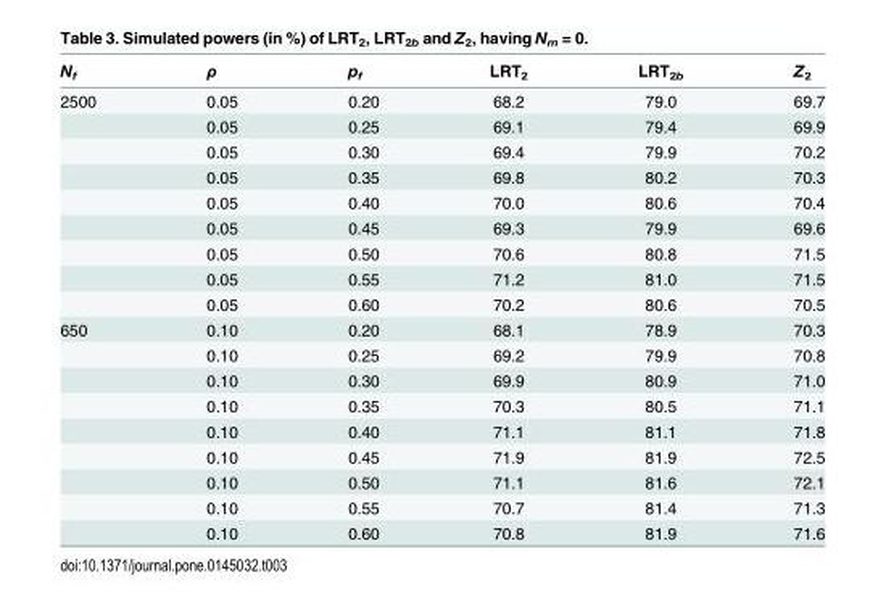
<table><thead><tr><td>N<sub>f</sub></td><td>ρ</td><td>p<sub>f</sub></td><td>LRT<sub>2</sub></td><td>LRT<sub>2b</sub></td><td>Z<sub>2</sub></td></tr></thead><tbody><tr><td rowspan="9">2500</td><td>0.05</td><td>0.20</td><td>68.2</td><td>79.0</td><td>69.7</td></tr><tr><td>0.05</td><td>0.25</td><td>69.1</td><td>79.4</td><td>69.9</td></tr><tr><td>0.05</td><td>0.30</td><td>69.4</td><td>79.9</td><td>70.2</td></tr><tr><td>0.05</td><td>0.35</td><td>69.8</td><td>80.2</td><td>70.3</td></tr><tr><td>0.05</td><td>0.40</td><td>70.0</td><td>80.6</td><td>70.4</td></tr><tr><td>0.05</td><td>0.45</td><td>69.3</td><td>79.9</td><td>69.6</td></tr><tr><td>0.05</td><td>0.50</td><td>70.6</td><td>80.8</td><td>71.5</td></tr><tr><td>0.05</td><td>0.55</td><td>71.2</td><td>81.0</td><td>71.5</td></tr><tr><td>0.05</td><td>0.60</td><td>70.2</td><td>80.6</td><td>70.5</td></tr><tr><td rowspan="9">650</td><td>0.10</td><td>0.20</td><td>68.1</td><td>78.9</td><td>70.3</td></tr><tr><td>0.10</td><td>0.25</td><td>69.2</td><td>79.9</td><td>70.8</td></tr><tr><td>0.10</td><td>0.30</td><td>69.9</td><td>80.9</td><td>71.0</td></tr><tr><td>0.10</td><td>0.35</td><td>70.3</td><td>80.5</td><td>71.1</td></tr><tr><td>0.10</td><td>0.40</td><td>71.1</td><td>81.1</td><td>71.8</td></tr><tr><td>0.10</td><td>0.45</td><td>71.9</td><td>81.9</td><td>72.5</td></tr><tr><td>0.10</td><td>0.50</td><td>71.1</td><td>81.6</td><td>72.1</td></tr><tr><td>0.10</td><td>0.55</td><td>70.7</td><td>81.4</td><td>71.3</td></tr><tr><td>0.10</td><td>0.60</td><td>70.8</td><td>81.9</td><td>71.6</td></tr></tbody></table>